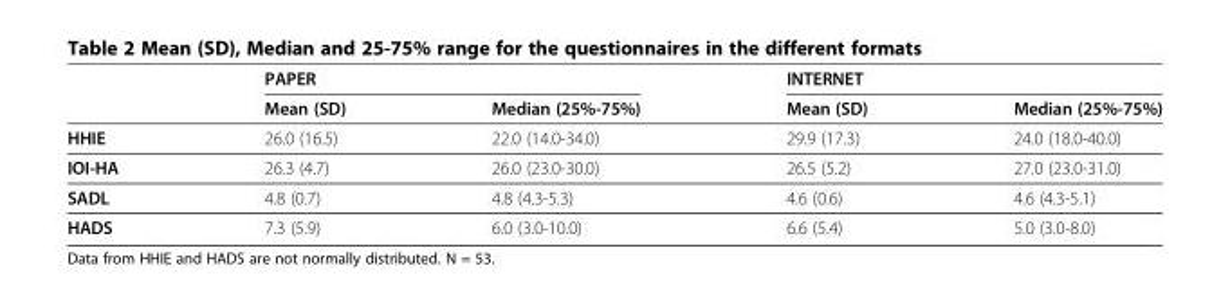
<table><thead><tr><td rowspan="2"></td><td colspan="2">PAPER</td><td colspan="2">INTERNET</td></tr><tr><td>Mean (SD)</td><td>Median (25%-75%)</td><td>Mean (SD)</td><td>Median (25%-75%)</td></tr></thead><tbody><tr><td>HHIE</td><td>26.0 (16.5)</td><td>22.0 (14.0-34.0)</td><td>29.9 (17.3)</td><td>24.0 (18.0-40.0)</td></tr><tr><td>IOI-HA</td><td>26.3 (4.7)</td><td>26.0 (23.0-30.0)</td><td>26.5 (5.2)</td><td>27.0 (23.0-31.0)</td></tr><tr><td>SADL</td><td>4.8 (0.7)</td><td>4.8 (4.3-5.3)</td><td>4.6 (0.6)</td><td>4.6 (4.3-5.1)</td></tr><tr><td>HADS</td><td>7.3 (5.9)</td><td>6.0 (3.0-10.0)</td><td>6.6 (5.4)</td><td>5.0 (3.0-8.0)</td></tr></tbody></table>